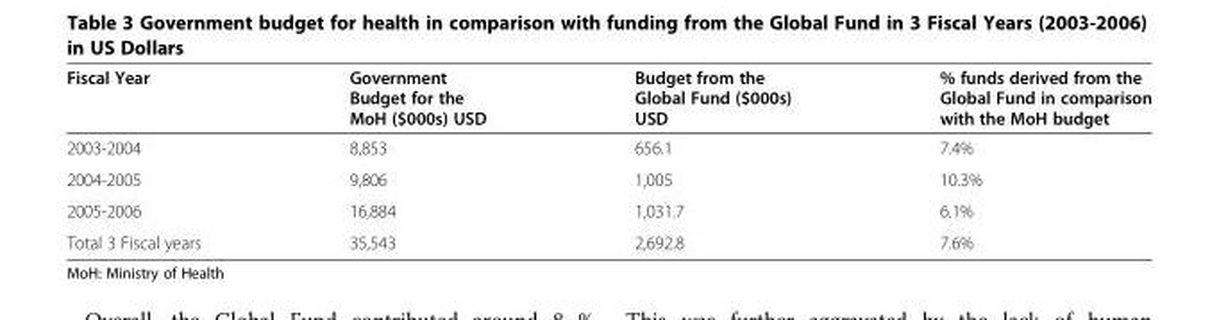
<table><thead><tr><td>Fiscal Year</td><td>Government Budget for the MoH ($000s) USD</td><td>Budget from the Global Fund ($000s) USD</td><td>% funds derived from the Global Fund in comparison with the MoH budget</td></tr></thead><tbody><tr><td>2003-2004</td><td>8,853</td><td>656.1</td><td>7.4%</td></tr><tr><td>2004-2005</td><td>9,806</td><td>1,005</td><td>10.3%</td></tr><tr><td>2005-2006</td><td>16,884</td><td>1,031.7</td><td>6.1%</td></tr><tr><td>Total 3 Fiscal years</td><td>35,543</td><td>2,692.8</td><td>7.6%</td></tr></tbody></table>